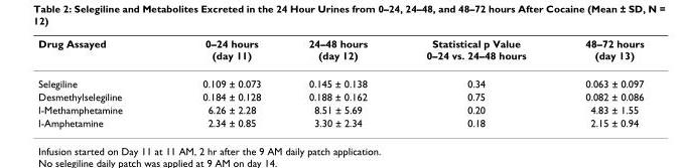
<table><thead><tr><td>Drug Assayed</td><td>0–24 hours (day 11)</td><td>24–48 hours (day 12)</td><td>Statistical p Value 0–24 vs. 24–48 hours</td><td>48–72 hours (day 13)</td></tr></thead><tbody><tr><td>Selegiline</td><td>0.109 ± 0.073</td><td>0.145 ± 0.138</td><td>0.34</td><td>0.063 ± 0.097</td></tr><tr><td>Desmethylselegiline</td><td>0.184 ± 0.128</td><td>0.188 ± 0.162</td><td>0.75</td><td>0.082 ± 0.086</td></tr><tr><td>l-Methamphetamine</td><td>6.26 ± 2.28</td><td>8.51 ± 5.69</td><td>0.20</td><td>4.83 ± 1.55</td></tr><tr><td>l-Amphetamine</td><td>2.34 ± 0.85</td><td>3.30 ± 2.34</td><td>0.18</td><td>2.15 ± 0.94</td></tr></tbody></table>